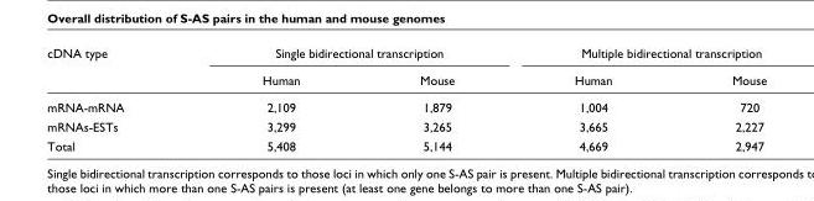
<table><thead><tr><td rowspan="2">cDNA type</td><td colspan="2">Single bidirectional transcription</td><td colspan="2">Multiple bidirectional transcription</td></tr><tr><td>Human</td><td>Mouse</td><td>Human</td><td>Mouse</td></tr></thead><tbody><tr><td>mRNA-mRNA</td><td>2,109</td><td>1,879</td><td>1,004</td><td>720</td></tr><tr><td>mRNAs-ESTs</td><td>3,299</td><td>3,265</td><td>3,665</td><td>2,227</td></tr><tr><td>Total</td><td>5,408</td><td>5,144</td><td>4,669</td><td>2,947</td></tr></tbody></table>